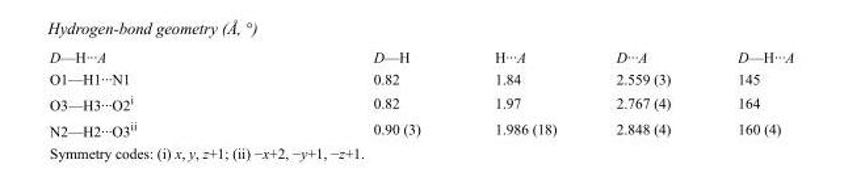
<table><tbody><tr><td>D—H···A</td><td>D—H</td><td>H···A</td><td>D···A</td><td>D—H···A</td></tr><tr><td>O1—H1···N1</td><td>0.82</td><td>1.84</td><td>2.559 (3)</td><td>145</td></tr><tr><td>O3—H3···O2<sup>i</sup></td><td>0.82</td><td>1.97</td><td>2.767 (4)</td><td>164</td></tr><tr><td>N2—H2···O3<sup>ii</sup></td><td>0.90 (3)</td><td>1.986 (18)</td><td>2.848 (4)</td><td>160 (4)</td></tr></tbody></table>